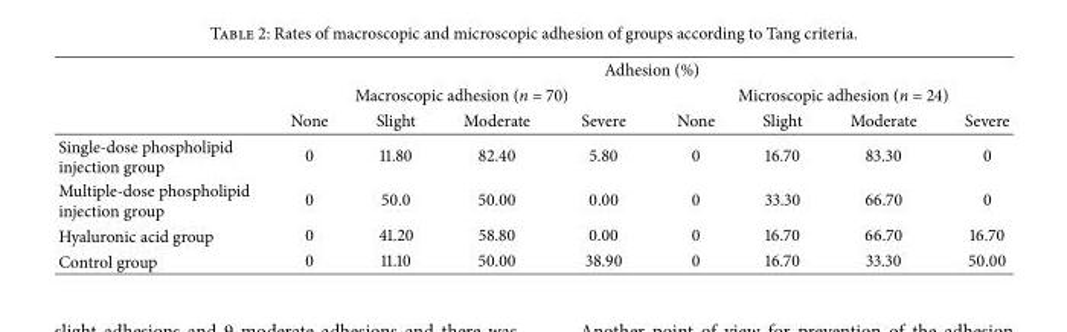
<table><thead><tr><td rowspan="3"></td><td colspan="8">Adhesion (%)</td></tr><tr><td colspan="4">Macroscopic adhesion (n = 70)</td><td colspan="4">Microscopic adhesion (n = 24)</td></tr><tr><td>None</td><td>Slight</td><td>Moderate</td><td>Severe</td><td>None</td><td>Slight</td><td>Moderate</td><td>Severe</td></tr></thead><tbody><tr><td>Single-dose phospholipid injection group</td><td>0</td><td>11.80</td><td>82.40</td><td>5.80</td><td>0</td><td>16.70</td><td>83.30</td><td>0</td></tr><tr><td>Multiple-dose phospholipid injection group</td><td>0</td><td>50.0</td><td>50.00</td><td>0.00</td><td>0</td><td>33.30</td><td>66.70</td><td>0</td></tr><tr><td>Hyaluronic acid group</td><td>0</td><td>41.20</td><td>58.80</td><td>0.00</td><td>0</td><td>16.70</td><td>66.70</td><td>16.70</td></tr><tr><td>Control group</td><td>0</td><td>11.10</td><td>50.00</td><td>38.90</td><td>0</td><td>16.70</td><td>33.30</td><td>50.00</td></tr></tbody></table>